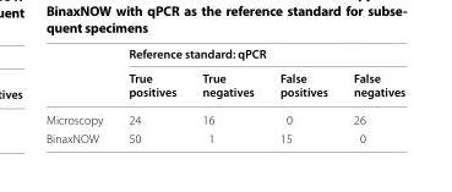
<table><thead><tr><td rowspan="2"></td><td colspan="4">Reference standard: qPCR</td></tr><tr><td>True positives</td><td>True negatives</td><td>False positives</td><td>False negatives</td></tr></thead><tbody><tr><td>Microscopy</td><td>24</td><td>16</td><td>0</td><td>26</td></tr><tr><td>BinaxNOW</td><td>50</td><td>1</td><td>15</td><td>0</td></tr></tbody></table>